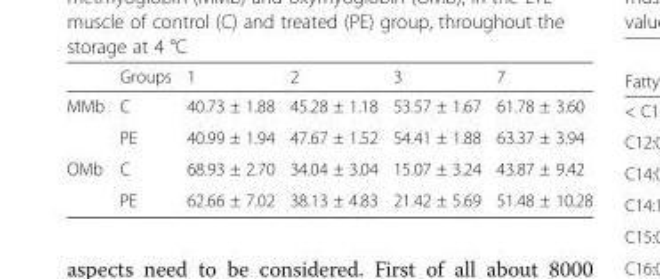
<table><thead><tr><td></td><td>Groups</td><td>1</td><td>2</td><td>3</td><td>7</td></tr></thead><tbody><tr><td rowspan="2">MMb</td><td>C</td><td>40.73 ± 1.88</td><td>45.28 ± 1.18</td><td>53.57 ± 1.67</td><td>61.78 ± 3.60</td></tr><tr><td>PE</td><td>40.99 ± 1.94</td><td>47.67 ± 1.52</td><td>54.41 ± 1.88</td><td>63.37 ± 3.94</td></tr><tr><td rowspan="2">OMb</td><td>C</td><td>68.93 ± 2.70</td><td>34.04 ± 3.04</td><td>15.07 ± 3.24</td><td>43.87 ± 9.42</td></tr><tr><td>PE</td><td>62.66 ± 7.02</td><td>38.13 ± 4.83</td><td>21.42 ± 5.69</td><td>51.48 ± 10.28</td></tr></tbody></table>